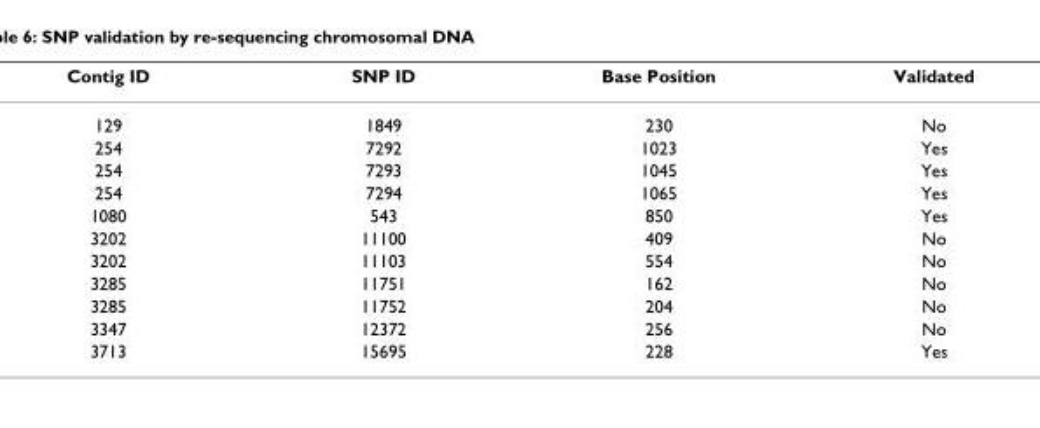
<table><thead><tr><td>Contig ID</td><td>SNP ID</td><td>Base Position</td><td>Validated</td></tr></thead><tbody><tr><td>129</td><td>1849</td><td>230</td><td>No</td></tr><tr><td>254</td><td>7292</td><td>1023</td><td>Yes</td></tr><tr><td>254</td><td>7293</td><td>1045</td><td>Yes</td></tr><tr><td>254</td><td>7294</td><td>1065</td><td>Yes</td></tr><tr><td>1080</td><td>543</td><td>850</td><td>Yes</td></tr><tr><td>3202</td><td>11100</td><td>409</td><td>No</td></tr><tr><td>3202</td><td>11103</td><td>554</td><td>No</td></tr><tr><td>3285</td><td>11751</td><td>162</td><td>No</td></tr><tr><td>3285</td><td>11752</td><td>204</td><td>No</td></tr><tr><td>3347</td><td>12372</td><td>256</td><td>No</td></tr><tr><td>3713</td><td>15695</td><td>228</td><td>Yes</td></tr></tbody></table>